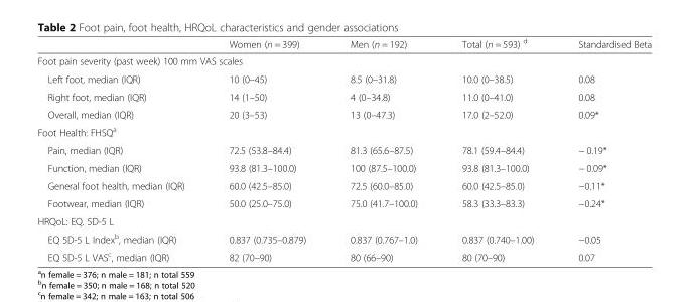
<table><thead><tr><td></td><td>Women (n = 399)</td><td>Men (n = 192)</td><td>Total (n = 593) <sup>d</sup></td><td>Standardised Beta</td></tr></thead><tbody><tr><td colspan="5">Foot pain severity (past week) 100 mm VAS scales</td></tr><tr><td>Left foot, median (IQR)</td><td>10 (0–45)</td><td>8.5 (0–31.8)</td><td>10.0 (0–38.5)</td><td>0.08</td></tr><tr><td>Right foot, median (IQR)</td><td>14 (1–50)</td><td>4 (0–34.8)</td><td>11.0 (0–41.0)</td><td>0.08</td></tr><tr><td>Overall, median (IQR)</td><td>20 (3–53)</td><td>13 (0–47.3)</td><td>17.0 (2–52.0)</td><td>0.09*</td></tr><tr><td colspan="5">Foot Health: FHSQ<sup>a</sup></td></tr><tr><td>Pain, median (IQR)</td><td>72.5 (53.8–84.4)</td><td>81.3 (65.6–87.5)</td><td>78.1 (59.4–84.4)</td><td>− 0.19*</td></tr><tr><td>Function, median (IQR)</td><td>93.8 (81.3–100.0)</td><td>100 (87.5–100.0)</td><td>93.8 (81.3–100.0)</td><td>− 0.09*</td></tr><tr><td>General foot health, median (IQR)</td><td>60.0 (42.5–85.0)</td><td>72.5 (60.0–85.0)</td><td>60.0 (42.5–85.0)</td><td>−0.11*</td></tr><tr><td>Footwear, median (IQR)</td><td>50.0 (25.0–75.0)</td><td>75.0 (41.7–100.0)</td><td>58.3 (33.3–83.3)</td><td>−0.24*</td></tr><tr><td colspan="5">HRQoL: EQ. 5D-5 L</td></tr><tr><td>EQ 5D-5 L Index<sup>b</sup>, median (IQR)</td><td>0.837 (0.735–0.879)</td><td>0.837 (0.767–1.0)</td><td>0.837 (0.740–1.00)</td><td>−0.05</td></tr><tr><td>EQ 5D-5 L VAS<sup>c</sup>, median (IQR)</td><td>82 (70–90)</td><td>80 (66–90)</td><td>80 (70–90)</td><td>0.07</td></tr></tbody></table>